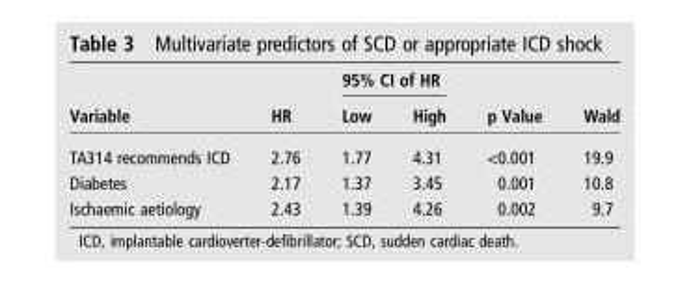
<table><thead><tr><td rowspan="2">Variable</td><td rowspan="2">HR</td><td colspan="2">95% CI of HR</td><td rowspan="2">p Value</td><td rowspan="2">Wald</td></tr><tr><td>Low</td><td>High</td></tr></thead><tbody><tr><td>TA314 recommends ICD</td><td>2.76</td><td>1.77</td><td>4.31</td><td>&lt;0.001</td><td>19.9</td></tr><tr><td>Diabetes</td><td>2.17</td><td>1.37</td><td>3.45</td><td>0.001</td><td>10.8</td></tr><tr><td>Ischaemic aetiology</td><td>2.43</td><td>1.39</td><td>4.26</td><td>0.002</td><td>9.7</td></tr></tbody></table>